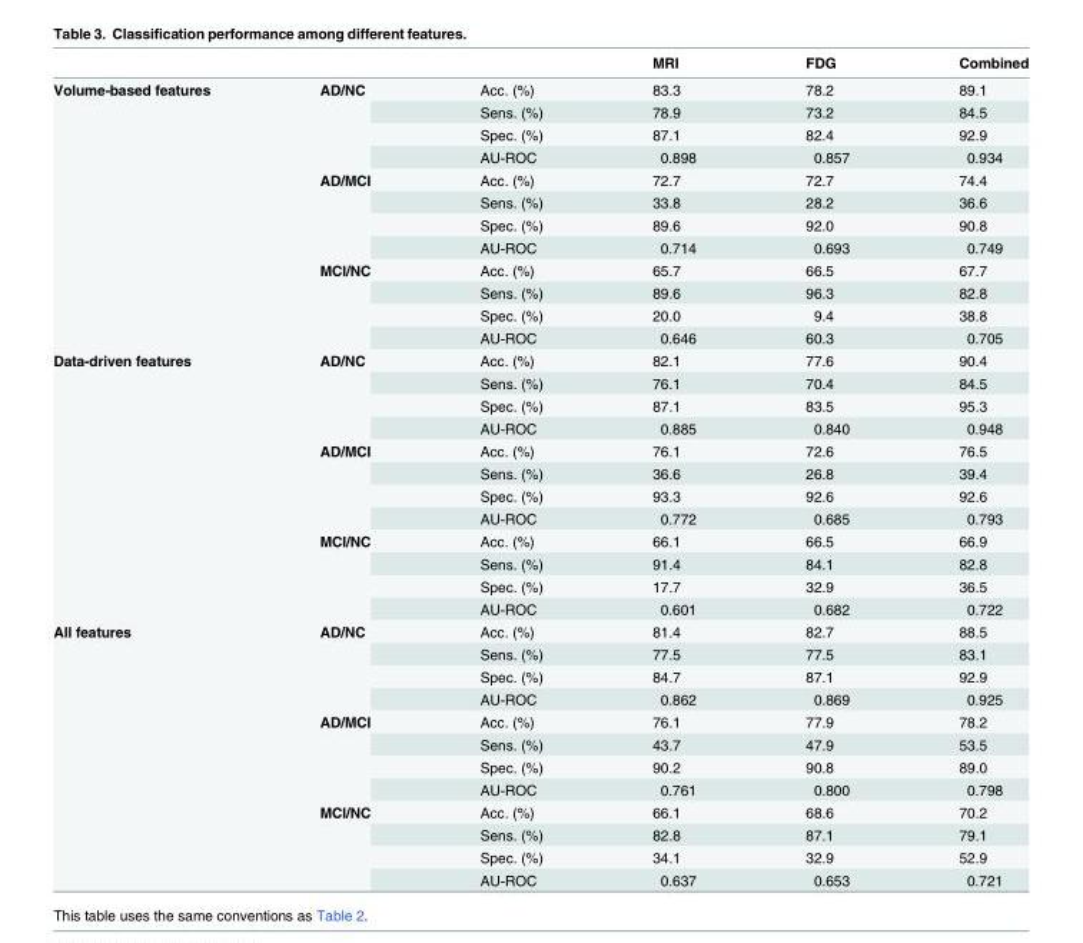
<table><thead><tr><td></td><td></td><td></td><td>MRI</td><td>FDG</td><td>Combined</td></tr></thead><tbody><tr><td rowspan="12">Volume-based features</td><td rowspan="4">AD/NC</td><td>Acc. (%)</td><td>83.3</td><td>78.2</td><td>89.1</td></tr><tr><td>Sens. (%)</td><td>78.9</td><td>73.2</td><td>84.5</td></tr><tr><td>Spec. (%)</td><td>87.1</td><td>82.4</td><td>92.9</td></tr><tr><td>AU-ROC</td><td>0.898</td><td>0.857</td><td>0.934</td></tr><tr><td rowspan="4">AD/MCI</td><td>Acc. (%)</td><td>72.7</td><td>72.7</td><td>74.4</td></tr><tr><td>Sens. (%)</td><td>33.8</td><td>28.2</td><td>36.6</td></tr><tr><td>Spec. (%)</td><td>89.6</td><td>92.0</td><td>90.8</td></tr><tr><td>AU-ROC</td><td>0.714</td><td>0.693</td><td>0.749</td></tr><tr><td rowspan="4">MCI/NC</td><td>Acc. (%)</td><td>65.7</td><td>66.5</td><td>67.7</td></tr><tr><td>Sens. (%)</td><td>89.6</td><td>96.3</td><td>82.8</td></tr><tr><td>Spec. (%)</td><td>20.0</td><td>9.4</td><td>38.8</td></tr><tr><td>AU-ROC</td><td>0.646</td><td>60.3</td><td>0.705</td></tr><tr><td rowspan="12">Data-driven features</td><td rowspan="4">AD/NC</td><td>Acc. (%)</td><td>82.1</td><td>77.6</td><td>90.4</td></tr><tr><td>Sens. (%)</td><td>76.1</td><td>70.4</td><td>84.5</td></tr><tr><td>Spec. (%)</td><td>87.1</td><td>83.5</td><td>95.3</td></tr><tr><td>AU-ROC</td><td>0.885</td><td>0.840</td><td>0.948</td></tr><tr><td rowspan="4">AD/MCI</td><td>Acc. (%)</td><td>76.1</td><td>72.6</td><td>76.5</td></tr><tr><td>Sens. (%)</td><td>36.6</td><td>26.8</td><td>39.4</td></tr><tr><td>Spec. (%)</td><td>93.3</td><td>92.6</td><td>92.6</td></tr><tr><td>AU-ROC</td><td>0.772</td><td>0.685</td><td>0.793</td></tr><tr><td rowspan="4">MCI/NC</td><td>Acc. (%)</td><td>66.1</td><td>66.5</td><td>66.9</td></tr><tr><td>Sens. (%)</td><td>91.4</td><td>84.1</td><td>82.8</td></tr><tr><td>Spec. (%)</td><td>17.7</td><td>32.9</td><td>36.5</td></tr><tr><td>AU-ROC</td><td>0.601</td><td>0.682</td><td>0.722</td></tr><tr><td rowspan="12">All features</td><td rowspan="4">AD/NC</td><td>Acc. (%)</td><td>81.4</td><td>82.7</td><td>88.5</td></tr><tr><td>Sens. (%)</td><td>77.5</td><td>77.5</td><td>83.1</td></tr><tr><td>Spec. (%)</td><td>84.7</td><td>87.1</td><td>92.9</td></tr><tr><td>AU-ROC</td><td>0.862</td><td>0.869</td><td>0.925</td></tr><tr><td rowspan="4">AD/MCI</td><td>Acc. (%)</td><td>76.1</td><td>77.9</td><td>78.2</td></tr><tr><td>Sens. (%)</td><td>43.7</td><td>47.9</td><td>53.5</td></tr><tr><td>Spec. (%)</td><td>90.2</td><td>90.8</td><td>89.0</td></tr><tr><td>AU-ROC</td><td>0.761</td><td>0.800</td><td>0.798</td></tr><tr><td rowspan="4">MCI/NC</td><td>Acc. (%)</td><td>66.1</td><td>68.6</td><td>70.2</td></tr><tr><td>Sens. (%)</td><td>82.8</td><td>87.1</td><td>79.1</td></tr><tr><td>Spec. (%)</td><td>34.1</td><td>32.9</td><td>52.9</td></tr><tr><td>AU-ROC</td><td>0.637</td><td>0.653</td><td>0.721</td></tr></tbody></table>